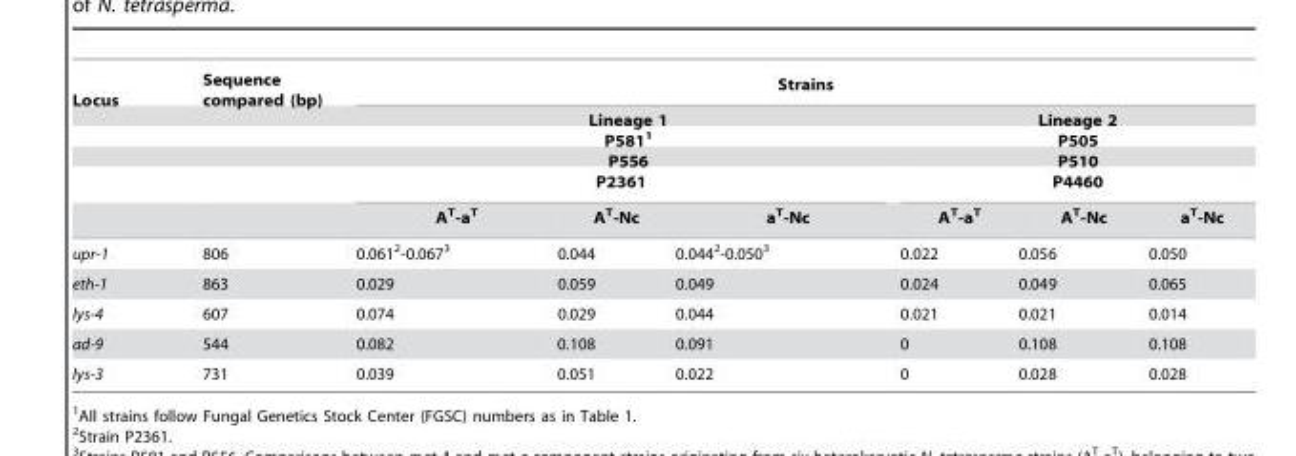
<table><thead><tr><td rowspan="6">Locus</td><td rowspan="6">Sequence compared (bp)</td><td colspan="6">Strains</td></tr><tr><td rowspan="4" colspan="3">Lineage 1 P581<sup>1</sup> P556 P2361</td><td rowspan="4" colspan="3">Lineage 2 P505 P510 P4460</td></tr><tr></tr><tr></tr><tr></tr><tr><td>A<sup>T</sup>-a<sup>T</sup></td><td>A<sup>T</sup>-Nc</td><td>a<sup>T</sup>-Nc</td><td>A<sup>T</sup>-a<sup>T</sup></td><td>A<sup>T</sup>-Nc</td><td>a<sup>T</sup>-Nc</td></tr></thead><tbody><tr><td>upr-1</td><td>806</td><td>0.061<sup>2</sup>-0.067<sup>3</sup></td><td>0.044</td><td>0.044<sup>2</sup>-0.050<sup>3</sup></td><td>0.022</td><td>0.056</td><td>0.050</td></tr><tr><td>eth-1</td><td>863</td><td>0.029</td><td>0.059</td><td>0.049</td><td>0.024</td><td>0.049</td><td>0.065</td></tr><tr><td>lys-4</td><td>607</td><td>0.074</td><td>0.029</td><td>0.044</td><td>0.021</td><td>0.021</td><td>0.014</td></tr><tr><td>ad-9</td><td>544</td><td>0.082</td><td>0.108</td><td>0.091</td><td>0</td><td>0.108</td><td>0.108</td></tr><tr><td>lys-3</td><td>731</td><td>0.039</td><td>0.051</td><td>0.022</td><td>0</td><td>0.028</td><td>0.028</td></tr></tbody></table>